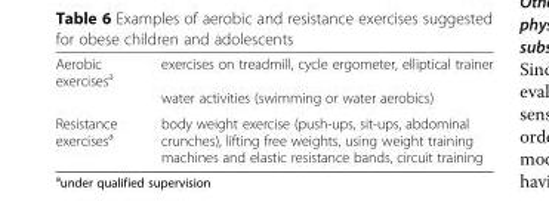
<table><tbody><tr><td>Aerobic exercises<sup>a</sup></td><td>exercises on treadmill, cycle ergometer, elliptical trainer water activities (swimming or water aerobics)</td></tr><tr><td>Resistance exercises<sup>a</sup></td><td>body weight exercise (push-ups, sit-ups, abdominal crunches), lifting free weights, using weight training machines and elastic resistance bands, circuit training</td></tr></tbody></table>